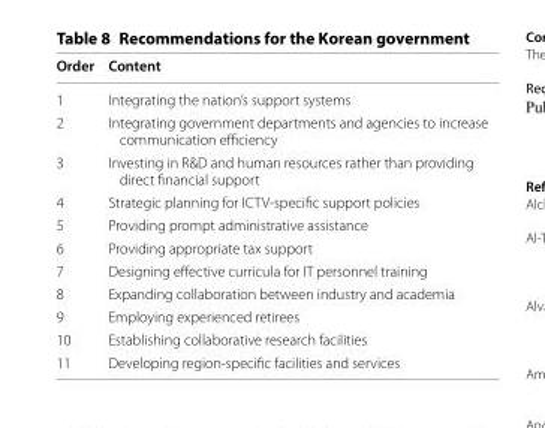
<table><thead><tr><td>Order</td><td>Content</td></tr></thead><tbody><tr><td>1</td><td>Integrating the nation’s support systems</td></tr><tr><td>2</td><td>Integrating government departments and agencies to increase communication efficiency</td></tr><tr><td>3</td><td>Investing in R&amp;D and human resources rather than providing direct financial support</td></tr><tr><td>4</td><td>Strategic planning for ICTV‑specific support policies</td></tr><tr><td>5</td><td>Providing prompt administrative assistance</td></tr><tr><td>6</td><td>Providing appropriate tax support</td></tr><tr><td>7</td><td>Designing effective curricula for IT personnel training</td></tr><tr><td>8</td><td>Expanding collaboration between industry and academia</td></tr><tr><td>9</td><td>Employing experienced retirees</td></tr><tr><td>10</td><td>Establishing collaborative research facilities</td></tr><tr><td>11</td><td>Developing region‑specific facilities and services</td></tr></tbody></table>